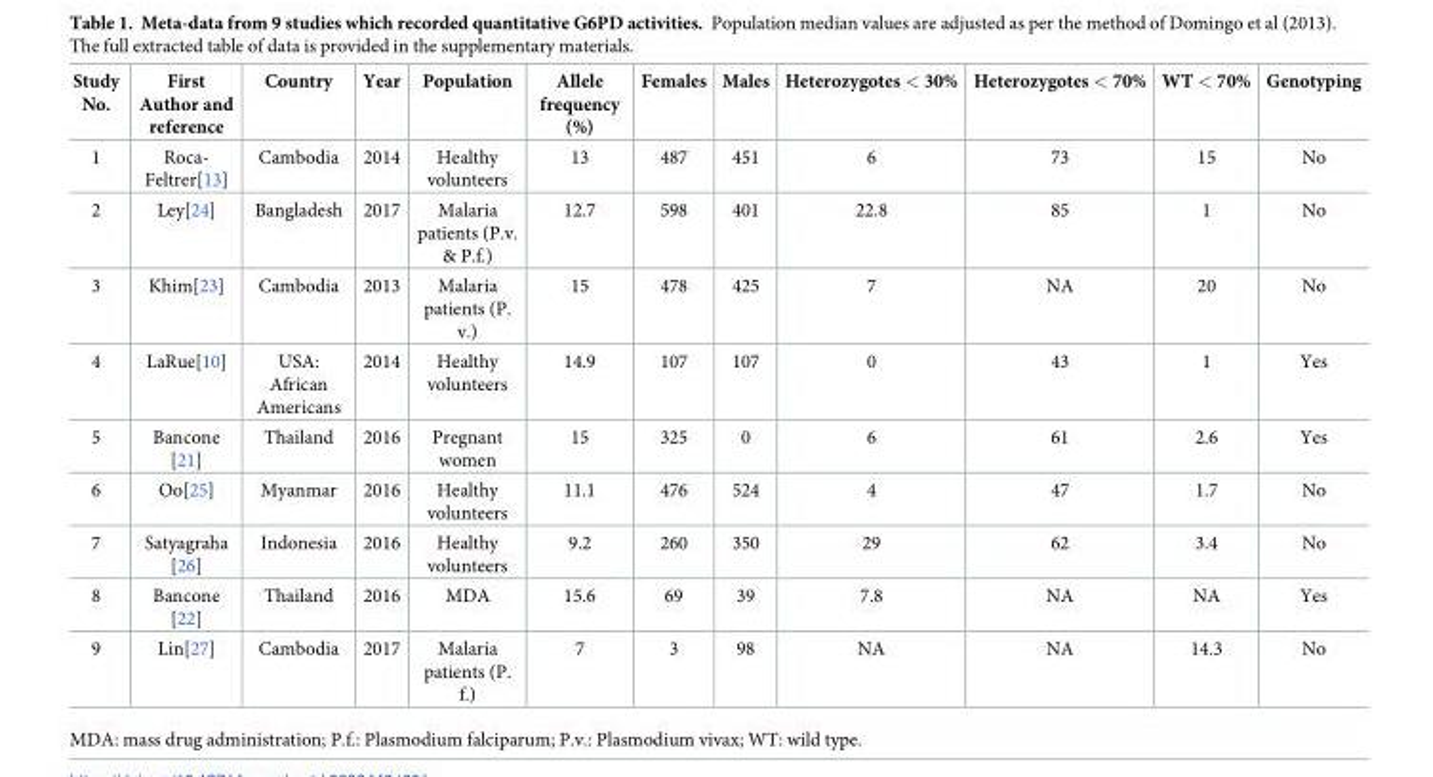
<table><thead><tr><td>Study No.</td><td>First Author and reference</td><td>Country</td><td>Year</td><td>Population</td><td>Allele frequency (%)</td><td>Females</td><td>Males</td><td>Heterozygotes &lt; 30%</td><td>Heterozygotes &lt; 70%</td><td>WT &lt; 70%</td><td>Genotyping</td></tr></thead><tbody><tr><td>1</td><td>Roca- Feltrer[13]</td><td>Cambodia</td><td>2014</td><td>Healthy volunteers</td><td>13</td><td>487</td><td>451</td><td>6</td><td>73</td><td>15</td><td>No</td></tr><tr><td>2</td><td>Ley[24]</td><td>Bangladesh</td><td>2017</td><td>Malaria patients (P.v. &amp; P.f.)</td><td>12.7</td><td>598</td><td>401</td><td>22.8</td><td>85</td><td>1</td><td>No</td></tr><tr><td>3</td><td>Khim[23]</td><td>Cambodia</td><td>2013</td><td>Malaria patients (P. v.)</td><td>15</td><td>478</td><td>425</td><td>7</td><td>NA</td><td>20</td><td>No</td></tr><tr><td>4</td><td>LaRue[10]</td><td>USA: African Americans</td><td>2014</td><td>Healthy volunteers</td><td>14.9</td><td>107</td><td>107</td><td>0</td><td>43</td><td>1</td><td>Yes</td></tr><tr><td>5</td><td>Bancone [21]</td><td>Thailand</td><td>2016</td><td>Pregnant women</td><td>15</td><td>325</td><td>0</td><td>6</td><td>61</td><td>2.6</td><td>Yes</td></tr><tr><td>6</td><td>Oo[25]</td><td>Myanmar</td><td>2016</td><td>Healthy volunteers</td><td>11.1</td><td>476</td><td>524</td><td>4</td><td>47</td><td>1.7</td><td>No</td></tr><tr><td>7</td><td>Satyagraha [26]</td><td>Indonesia</td><td>2016</td><td>Healthy volunteers</td><td>9.2</td><td>260</td><td>350</td><td>29</td><td>62</td><td>3.4</td><td>No</td></tr><tr><td>8</td><td>Bancone [22]</td><td>Thailand</td><td>2016</td><td>MDA</td><td>15.6</td><td>69</td><td>39</td><td>7.8</td><td>NA</td><td>NA</td><td>Yes</td></tr><tr><td>9</td><td>Lin[27]</td><td>Cambodia</td><td>2017</td><td>Malaria patients (P. f.)</td><td>7</td><td>3</td><td>98</td><td>NA</td><td>NA</td><td>14.3</td><td>No</td></tr></tbody></table>